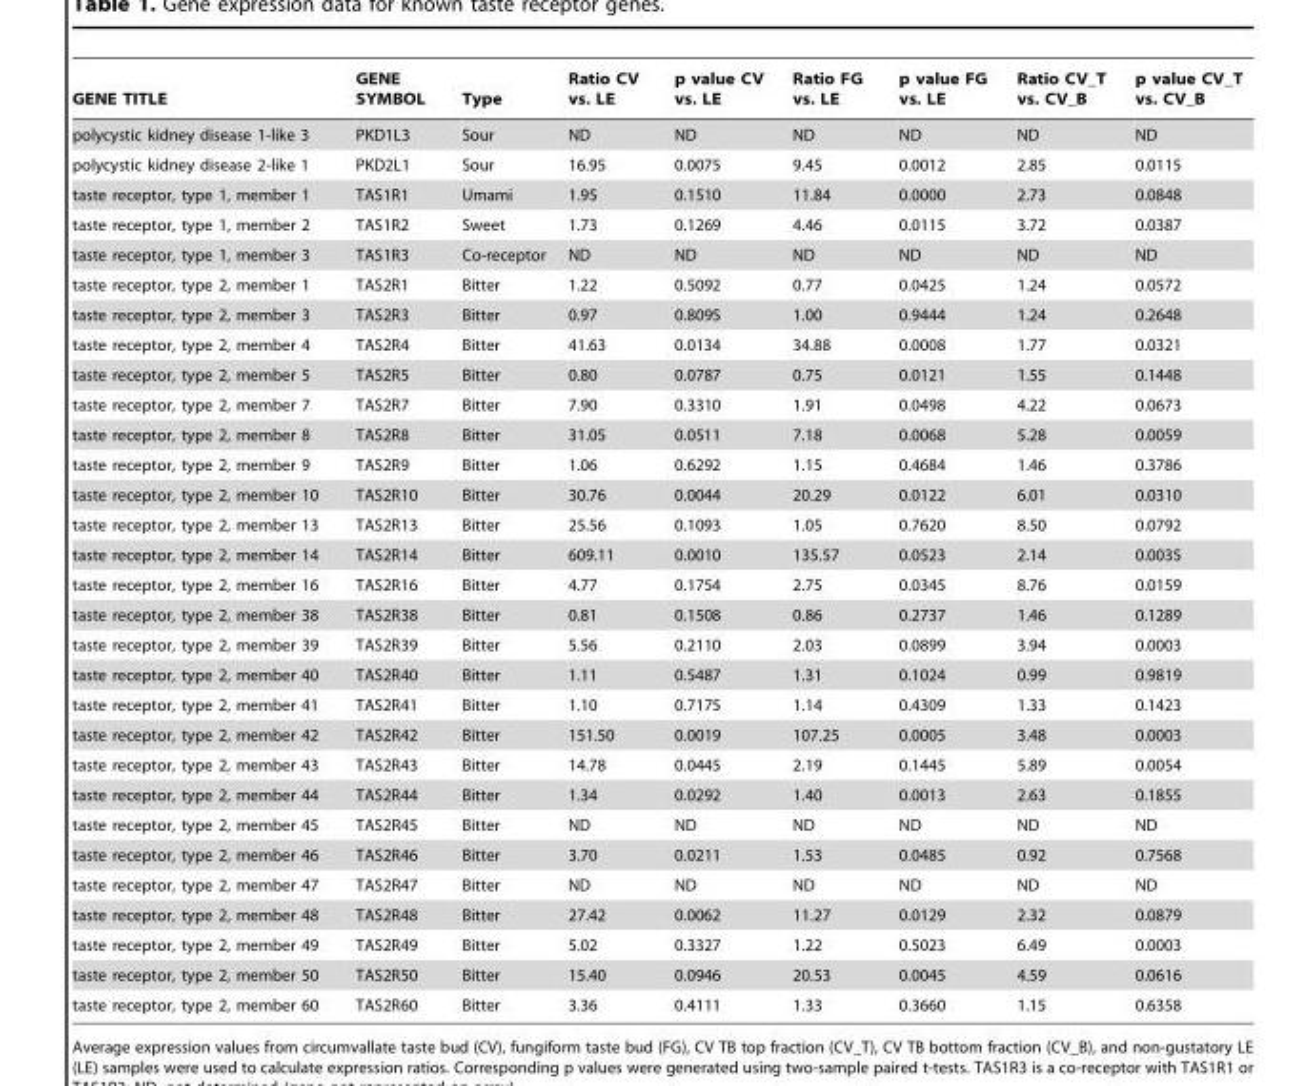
<table><thead><tr><td>GENE TITLE</td><td>GENE SYMBOL</td><td>Type</td><td>Ratio CV vs. LE</td><td>p value CV vs. LE</td><td>Ratio FG vs. LE</td><td>p value FG vs. LE</td><td>Ratio CV_T vs. CV_B</td><td>p value CV_T vs. CV_B</td></tr></thead><tbody><tr><td>polycystic kidney disease 1-like 3</td><td>PKD1L3</td><td>Sour</td><td>ND</td><td>ND</td><td>ND</td><td>ND</td><td>ND</td><td>ND</td></tr><tr><td>polycystic kidney disease 2-like 1</td><td>PKD2L1</td><td>Sour</td><td>16.95</td><td>0.0075</td><td>9.45</td><td>0.0012</td><td>2.85</td><td>0.0115</td></tr><tr><td>taste receptor, type 1, member 1</td><td>TAS1R1</td><td>Umami</td><td>1.95</td><td>0.1510</td><td>11.84</td><td>0.0000</td><td>2.73</td><td>0.0848</td></tr><tr><td>taste receptor, type 1, member 2</td><td>TAS1R2</td><td>Sweet</td><td>1.73</td><td>0.1269</td><td>4.46</td><td>0.0115</td><td>3.72</td><td>0.0387</td></tr><tr><td>taste receptor, type 1, member 3</td><td>TAS1R3</td><td>Co-receptor</td><td>ND</td><td>ND</td><td>ND</td><td>ND</td><td>ND</td><td>ND</td></tr><tr><td>taste receptor, type 2, member 1</td><td>TAS2R1</td><td>Bitter</td><td>1.22</td><td>0.5092</td><td>0.77</td><td>0.0425</td><td>1.24</td><td>0.0572</td></tr><tr><td>taste receptor, type 2, member 3</td><td>TAS2R3</td><td>Bitter</td><td>0.97</td><td>0.8095</td><td>1.00</td><td>0.9444</td><td>1.24</td><td>0.2648</td></tr><tr><td>taste receptor, type 2, member 4</td><td>TAS2R4</td><td>Bitter</td><td>41.63</td><td>0.0134</td><td>34.88</td><td>0.0008</td><td>1.77</td><td>0.0321</td></tr><tr><td>taste receptor, type 2, member 5</td><td>TAS2R5</td><td>Bitter</td><td>0.80</td><td>0.0787</td><td>0.75</td><td>0.0121</td><td>1.55</td><td>0.1448</td></tr><tr><td>taste receptor, type 2, member 7</td><td>TAS2R7</td><td>Bitter</td><td>7.90</td><td>0.3310</td><td>1.91</td><td>0.0498</td><td>4.22</td><td>0.0673</td></tr><tr><td>taste receptor, type 2, member 8</td><td>TAS2R8</td><td>Bitter</td><td>31.05</td><td>0.0511</td><td>7.18</td><td>0.0068</td><td>5.28</td><td>0.0059</td></tr><tr><td>taste receptor, type 2, member 9</td><td>TAS2R9</td><td>Bitter</td><td>1.06</td><td>0.6292</td><td>1.15</td><td>0.4684</td><td>1.46</td><td>0.3786</td></tr><tr><td>taste receptor, type 2, member 10</td><td>TAS2R10</td><td>Bitter</td><td>30.76</td><td>0.0044</td><td>20.29</td><td>0.0122</td><td>6.01</td><td>0.0310</td></tr><tr><td>taste receptor, type 2, member 13</td><td>TAS2R13</td><td>Bitter</td><td>25.56</td><td>0.1093</td><td>1.05</td><td>0.7620</td><td>8.50</td><td>0.0792</td></tr><tr><td>taste receptor, type 2, member 14</td><td>TAS2R14</td><td>Bitter</td><td>609.11</td><td>0.0010</td><td>135.57</td><td>0.0523</td><td>2.14</td><td>0.0035</td></tr><tr><td>taste receptor, type 2, member 16</td><td>TAS2R16</td><td>Bitter</td><td>4.77</td><td>0.1754</td><td>2.75</td><td>0.0345</td><td>8.76</td><td>0.0159</td></tr><tr><td>taste receptor, type 2, member 38</td><td>TAS2R38</td><td>Bitter</td><td>0.81</td><td>0.1508</td><td>0.86</td><td>0.2737</td><td>1.46</td><td>0.1289</td></tr><tr><td>taste receptor, type 2, member 39</td><td>TAS2R39</td><td>Bitter</td><td>5.56</td><td>0.2110</td><td>2.03</td><td>0.0899</td><td>3.94</td><td>0.0003</td></tr><tr><td>taste receptor, type 2, member 40</td><td>TAS2R40</td><td>Bitter</td><td>1.11</td><td>0.5487</td><td>1.31</td><td>0.1024</td><td>0.99</td><td>0.9819</td></tr><tr><td>taste receptor, type 2, member 41</td><td>TAS2R41</td><td>Bitter</td><td>1.10</td><td>0.7175</td><td>1.14</td><td>0.4309</td><td>1.33</td><td>0.1423</td></tr><tr><td>taste receptor, type 2, member 42</td><td>TAS2R42</td><td>Bitter</td><td>151.50</td><td>0.0019</td><td>107.25</td><td>0.0005</td><td>3.48</td><td>0.0003</td></tr><tr><td>taste receptor, type 2, member 43</td><td>TAS2R43</td><td>Bitter</td><td>14.78</td><td>0.0445</td><td>2.19</td><td>0.1445</td><td>5.89</td><td>0.0054</td></tr><tr><td>taste receptor, type 2, member 44</td><td>TAS2R44</td><td>Bitter</td><td>1.34</td><td>0.0292</td><td>1.40</td><td>0.0013</td><td>2.63</td><td>0.1855</td></tr><tr><td>taste receptor, type 2, member 45</td><td>TAS2R45</td><td>Bitter</td><td>ND</td><td>ND</td><td>ND</td><td>ND</td><td>ND</td><td>ND</td></tr><tr><td>taste receptor, type 2, member 46</td><td>TAS2R46</td><td>Bitter</td><td>3.70</td><td>0.0211</td><td>1.53</td><td>0.0485</td><td>0.92</td><td>0.7568</td></tr><tr><td>taste receptor, type 2, member 47</td><td>TAS2R47</td><td>Bitter</td><td>ND</td><td>ND</td><td>ND</td><td>ND</td><td>ND</td><td>ND</td></tr><tr><td>taste receptor, type 2, member 48</td><td>TAS2R48</td><td>Bitter</td><td>27.42</td><td>0.0062</td><td>11.27</td><td>0.0129</td><td>2.32</td><td>0.0879</td></tr><tr><td>taste receptor, type 2, member 49</td><td>TAS2R49</td><td>Bitter</td><td>5.02</td><td>0.3327</td><td>1.22</td><td>0.5023</td><td>6.49</td><td>0.0003</td></tr><tr><td>taste receptor, type 2, member 50</td><td>TAS2R50</td><td>Bitter</td><td>15.40</td><td>0.0946</td><td>20.53</td><td>0.0045</td><td>4.59</td><td>0.0616</td></tr><tr><td>taste receptor, type 2, member 60</td><td>TAS2R60</td><td>Bitter</td><td>3.36</td><td>0.4111</td><td>1.33</td><td>0.3660</td><td>1.15</td><td>0.6358</td></tr></tbody></table>